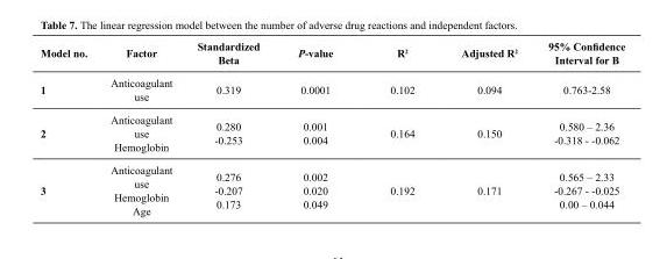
<table><thead><tr><td>Model no.</td><td>Factor</td><td>Standardized Beta</td><td>P-value</td><td>R<sup>2</sup></td><td>Adjusted R<sup>2</sup></td><td>95% Confidence Interval for B</td></tr></thead><tbody><tr><td>1</td><td>Anticoagulant use</td><td>0.319</td><td>0.0001</td><td>0.102</td><td>0.094</td><td>0.763-2.58</td></tr><tr><td>2</td><td>Anticoagulant use Hemoglobin</td><td>0.280 -0.253</td><td>0.001 0.004</td><td>0.164</td><td>0.150</td><td>0.580 – 2.36 -0.318 - -0.062</td></tr><tr><td>3</td><td>Anticoagulant use Hemoglobin Age</td><td>0.276 -0.207 0.173</td><td>0.002 0.020 0.049</td><td>0.192</td><td>0.171</td><td>0.565 – 2.33 -0.267 - -0.025 0.00 – 0.044</td></tr></tbody></table>